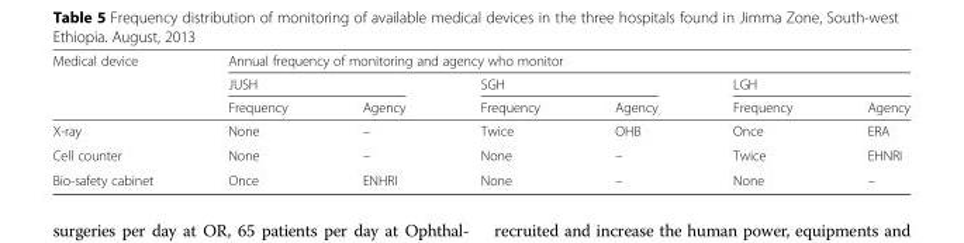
<table><thead><tr><td rowspan="3">Medical device</td><td colspan="6">Annual frequency of monitoring and agency who monitor</td></tr><tr><td colspan="2">JUSH</td><td colspan="2">SGH</td><td colspan="2">LGH</td></tr><tr><td>Frequency</td><td>Agency</td><td>Frequency</td><td>Agency</td><td>Frequency</td><td>Agency</td></tr></thead><tbody><tr><td>X-ray</td><td>None</td><td>–</td><td>Twice</td><td>OHB</td><td>Once</td><td>ERA</td></tr><tr><td>Cell counter</td><td>None</td><td>–</td><td>None</td><td>–</td><td>Twice</td><td>EHNRI</td></tr><tr><td>Bio-safety cabinet</td><td>Once</td><td>ENHRI</td><td>None</td><td>–</td><td>None</td><td>–</td></tr></tbody></table>